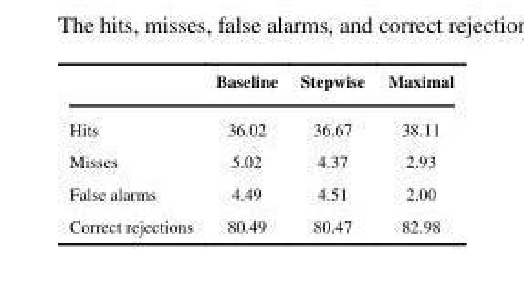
<table><thead><tr><td></td><td>Baseline</td><td>Stepwise</td><td>Maximal</td></tr></thead><tbody><tr><td>Hits</td><td>36.02</td><td>36.67</td><td>38.11</td></tr><tr><td>Misses</td><td>5.02</td><td>4.37</td><td>2.93</td></tr><tr><td>False alarms</td><td>4.49</td><td>4.51</td><td>2.00</td></tr><tr><td>Correct rejections</td><td>80.49</td><td>80.47</td><td>82.98</td></tr></tbody></table>